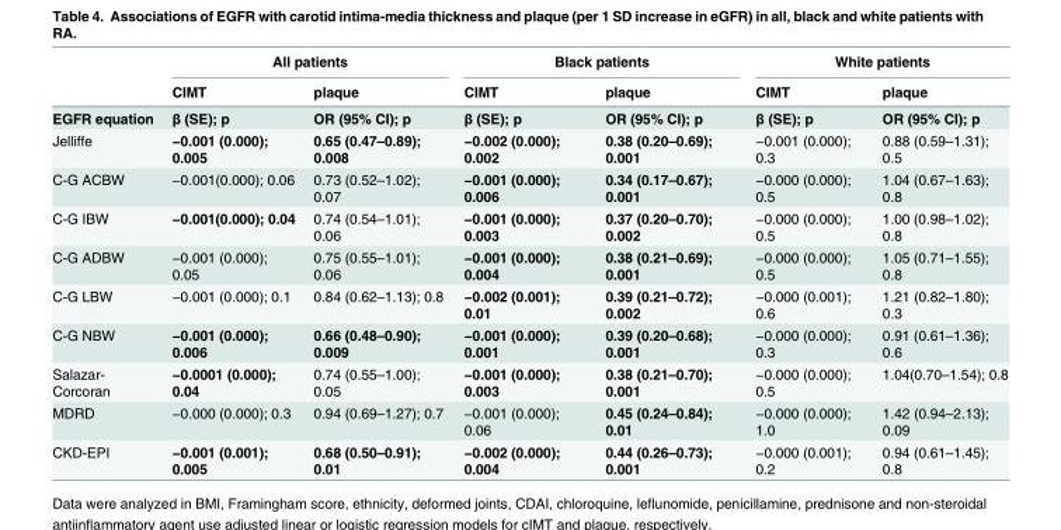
<table><thead><tr><td rowspan="2"></td><td colspan="2">All patients</td><td colspan="2">Black patients</td><td colspan="2">White patients</td></tr><tr><td>CIMT</td><td>plaque</td><td>CIMT</td><td>plaque</td><td>CIMT</td><td>plaque</td></tr></thead><tbody><tr><td>EGFR equation</td><td>β (SE); p</td><td>OR (95% CI); p</td><td>β (SE); p</td><td>OR (95% CI); p</td><td>β (SE); p</td><td>OR (95% CI); p</td></tr><tr><td>Jelliffe</td><td>−0.001 (0.000); 0.005</td><td>0.65 (0.47–0.89); 0.008</td><td>−0.002 (0.000); 0.002</td><td>0.38 (0.20–0.69); 0.001</td><td>−0.001 (0.000); 0.3</td><td>0.88 (0.59–1.31); 0.5</td></tr><tr><td>C-G ACBW</td><td>−0.001(0.000); 0.06</td><td>0.73 (0.52–1.02); 0.07</td><td>−0.001 (0.000); 0.006</td><td>0.34 (0.17–0.67); 0.001</td><td>−0.000 (0.000); 0.5</td><td>1.04 (0.67–1.63); 0.8</td></tr><tr><td>C-G IBW</td><td>−0.001(0.000); 0.04</td><td>0.74 (0.54–1.01); 0.06</td><td>−0.001 (0.000); 0.003</td><td>0.37 (0.20–0.70); 0.002</td><td>−0.000 (0.000); 0.5</td><td>1.00 (0.98–1.02); 0.8</td></tr><tr><td>C-G ADBW</td><td>−0.001 (0.000); 0.05</td><td>0.75 (0.55–1.01); 0.06</td><td>−0.001 (0.000); 0.004</td><td>0.38 (0.21–0.69); 0.001</td><td>−0.000 (0.000); 0.5</td><td>1.05 (0.71–1.55); 0.8</td></tr><tr><td>C-G LBW</td><td>−0.001 (0.000); 0.1</td><td>0.84 (0.62–1.13); 0.8</td><td>−0.002 (0.001); 0.01</td><td>0.39 (0.21–0.72); 0.002</td><td>−0.000 (0.001); 0.6</td><td>1.21 (0.82–1.80); 0.3</td></tr><tr><td>C-G NBW</td><td>−0.001 (0.000); 0.006</td><td>0.66 (0.48–0.90); 0.009</td><td>−0.001 (0.000); 0.001</td><td>0.39 (0.20–0.68); 0.001</td><td>−0.000 (0.000); 0.3</td><td>0.91 (0.61–1.36); 0.6</td></tr><tr><td>Salazar- Corcoran</td><td>−0.0001 (0.000); 0.04</td><td>0.74 (0.55–1.00); 0.05</td><td>−0.001 (0.000); 0.003</td><td>0.38 (0.21–0.70); 0.001</td><td>−0.000 (0.000); 0.5</td><td>1.04(0.70–1.54); 0.8</td></tr><tr><td>MDRD</td><td>−0.000 (0.000); 0.3</td><td>0.94 (0.69–1.27); 0.7</td><td>−0.001 (0.000); 0.06</td><td>0.45 (0.24–0.84); 0.01</td><td>−0.000 (0.000); 1.0</td><td>1.42 (0.94–2.13); 0.09</td></tr><tr><td>CKD-EPI</td><td>−0.001 (0.001); 0.005</td><td>0.68 (0.50–0.91); 0.01</td><td>−0.002 (0.000); 0.004</td><td>0.44 (0.26–0.73); 0.001</td><td>−0.000 (0.001); 0.2</td><td>0.94 (0.61–1.45); 0.8</td></tr></tbody></table>